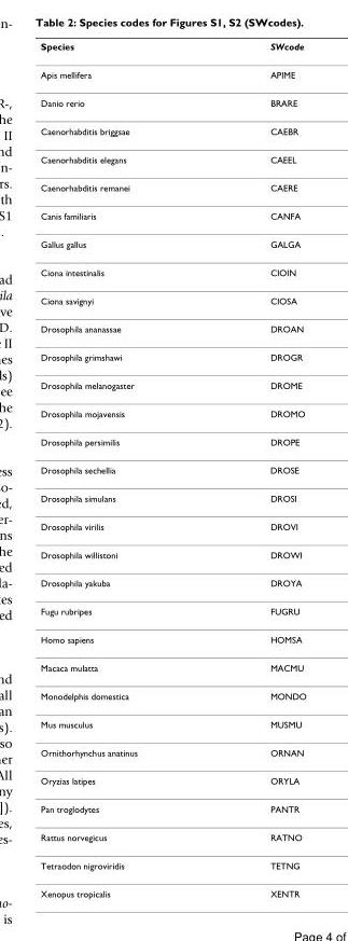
<table><thead><tr><td>Species</td><td>SWcode</td></tr></thead><tbody><tr><td>Apis mellifera</td><td>APIME</td></tr><tr><td>Danio rerio</td><td>BRARE</td></tr><tr><td>Caenorhabditis briggsae</td><td>CAEBR</td></tr><tr><td>Caenorhabditis elegans</td><td>CAEEL</td></tr><tr><td>Caenorhabditis remanei</td><td>CAERE</td></tr><tr><td>Canis familiaris</td><td>CANFA</td></tr><tr><td>Gallus gallus</td><td>GALGA</td></tr><tr><td>Ciona intestinalis</td><td>CIOIN</td></tr><tr><td>Ciona savignyi</td><td>CIOSA</td></tr><tr><td>Drosophila ananassae</td><td>DROAN</td></tr><tr><td>Drosophila grimshawi</td><td>DROGR</td></tr><tr><td>Drosophila melanogaster</td><td>DROME</td></tr><tr><td>Drosophila mojavensis</td><td>DROMO</td></tr><tr><td>Drosophila persimilis</td><td>DROPE</td></tr><tr><td>Drosophila sechellia</td><td>DROSE</td></tr><tr><td>Drosophila simulans</td><td>DROSI</td></tr><tr><td>Drosophila virilis</td><td>DROVI</td></tr><tr><td>Drosophila willistoni</td><td>DROWI</td></tr><tr><td>Drosophila yakuba</td><td>DROYA</td></tr><tr><td>Fugu rubripes</td><td>FUGRU</td></tr><tr><td>Homo sapiens</td><td>HOMSA</td></tr><tr><td>Macaca mulatta</td><td>MACMU</td></tr><tr><td>Monodelphis domestica</td><td>MONDO</td></tr><tr><td>Mus musculus</td><td>MUSMU</td></tr><tr><td>Ornithorhynchus anatinus</td><td>ORNAN</td></tr><tr><td>Oryzias latipes</td><td>ORYLA</td></tr><tr><td>Pan troglodytes</td><td>PANTR</td></tr><tr><td>Rattus norvegicus</td><td>RATNO</td></tr><tr><td>Tetraodon nigroviridis</td><td>TETNG</td></tr><tr><td>Xenopus tropicalis</td><td>XENTR</td></tr></tbody></table>